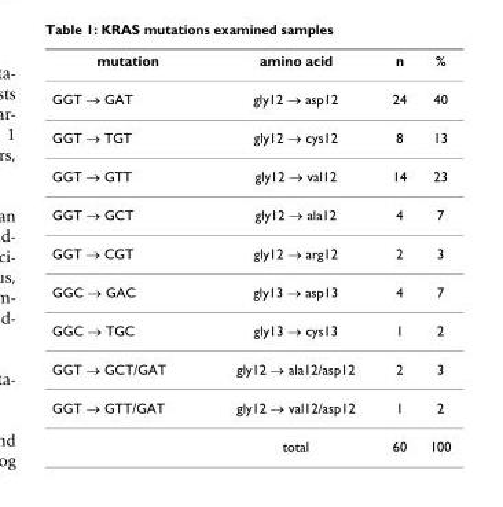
<table><thead><tr><td>mutation</td><td>amino acid</td><td>n</td><td>%</td></tr></thead><tbody><tr><td>GGT → GAT</td><td>gly12 → asp12</td><td>24</td><td>40</td></tr><tr><td>GGT → TGT</td><td>gly12 → cys12</td><td>8</td><td>13</td></tr><tr><td>GGT → GTT</td><td>gly12 → val12</td><td>14</td><td>23</td></tr><tr><td>GGT → GCT</td><td>gly12 → ala12</td><td>4</td><td>7</td></tr><tr><td>GGT → CGT</td><td>gly12 → arg12</td><td>2</td><td>3</td></tr><tr><td>GGC → GAC</td><td>gly13 → asp13</td><td>4</td><td>7</td></tr><tr><td>GGC → TGC</td><td>gly13 → cys13</td><td>1</td><td>2</td></tr><tr><td>GGT → GCT/GAT</td><td>gly12 → ala12/asp12</td><td>2</td><td>3</td></tr><tr><td rowspan="2">GGT → GTT/GAT</td><td>gly12 → val12/asp12</td><td>1</td><td>2</td></tr><tr><td>total</td><td>60</td><td>100</td></tr></tbody></table>